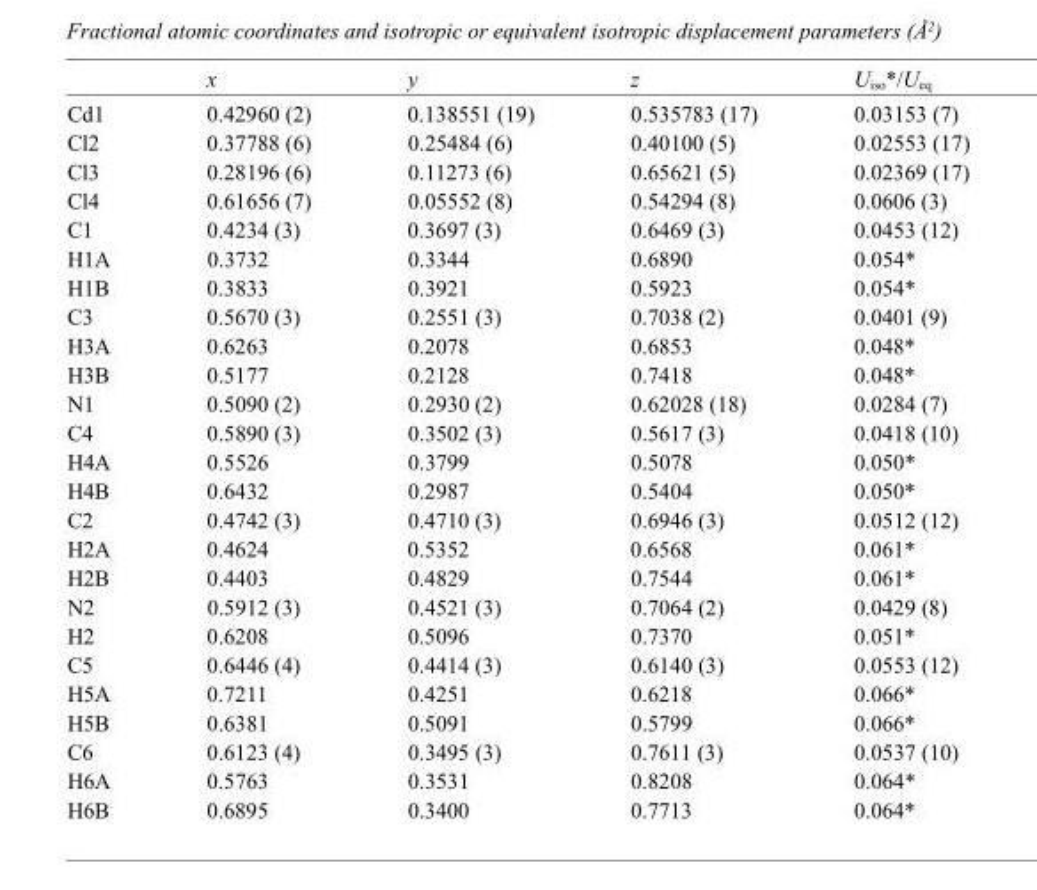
<table><thead><tr><td></td><td>x</td><td>y</td><td>z</td><td>U<sub>iso</sub>*/U<sub>eq</sub></td></tr></thead><tbody><tr><td>Cd1</td><td>0.42960 (2)</td><td>0.138551 (19)</td><td>0.535783 (17)</td><td>0.03153 (7)</td></tr><tr><td>Cl2</td><td>0.37788 (6)</td><td>0.25484 (6)</td><td>0.40100 (5)</td><td>0.02553 (17)</td></tr><tr><td>Cl3</td><td>0.28196 (6)</td><td>0.11273 (6)</td><td>0.65621 (5)</td><td>0.02369 (17)</td></tr><tr><td>Cl4</td><td>0.61656 (7)</td><td>0.05552 (8)</td><td>0.54294 (8)</td><td>0.0606 (3)</td></tr><tr><td>C1</td><td>0.4234 (3)</td><td>0.3697 (3)</td><td>0.6469 (3)</td><td>0.0453 (12)</td></tr><tr><td>H1A</td><td>0.3732</td><td>0.3344</td><td>0.6890</td><td>0.054*</td></tr><tr><td>H1B</td><td>0.3833</td><td>0.3921</td><td>0.5923</td><td>0.054*</td></tr><tr><td>C3</td><td>0.5670 (3)</td><td>0.2551 (3)</td><td>0.7038 (2)</td><td>0.0401 (9)</td></tr><tr><td>H3A</td><td>0.6263</td><td>0.2078</td><td>0.6853</td><td>0.048*</td></tr><tr><td>H3B</td><td>0.5177</td><td>0.2128</td><td>0.7418</td><td>0.048*</td></tr><tr><td>N1</td><td>0.5090 (2)</td><td>0.2930 (2)</td><td>0.62028 (18)</td><td>0.0284 (7)</td></tr><tr><td>C4</td><td>0.5890 (3)</td><td>0.3502 (3)</td><td>0.5617 (3)</td><td>0.0418 (10)</td></tr><tr><td>H4A</td><td>0.5526</td><td>0.3799</td><td>0.5078</td><td>0.050*</td></tr><tr><td>H4B</td><td>0.6432</td><td>0.2987</td><td>0.5404</td><td>0.050*</td></tr><tr><td>C2</td><td>0.4742 (3)</td><td>0.4710 (3)</td><td>0.6946 (3)</td><td>0.0512 (12)</td></tr><tr><td>H2A</td><td>0.4624</td><td>0.5352</td><td>0.6568</td><td>0.061*</td></tr><tr><td>H2B</td><td>0.4403</td><td>0.4829</td><td>0.7544</td><td>0.061*</td></tr><tr><td>N2</td><td>0.5912 (3)</td><td>0.4521 (3)</td><td>0.7064 (2)</td><td>0.0429 (8)</td></tr><tr><td>H2</td><td>0.6208</td><td>0.5096</td><td>0.7370</td><td>0.051*</td></tr><tr><td>C5</td><td>0.6446 (4)</td><td>0.4414 (3)</td><td>0.6140 (3)</td><td>0.0553 (12)</td></tr><tr><td>H5A</td><td>0.7211</td><td>0.4251</td><td>0.6218</td><td>0.066*</td></tr><tr><td>H5B</td><td>0.6381</td><td>0.5091</td><td>0.5799</td><td>0.066*</td></tr><tr><td>C6</td><td>0.6123 (4)</td><td>0.3495 (3)</td><td>0.7611 (3)</td><td>0.0537 (10)</td></tr><tr><td>H6A</td><td>0.5763</td><td>0.3531</td><td>0.8208</td><td>0.064*</td></tr><tr><td>H6B</td><td>0.6895</td><td>0.3400</td><td>0.7713</td><td>0.064*</td></tr></tbody></table>